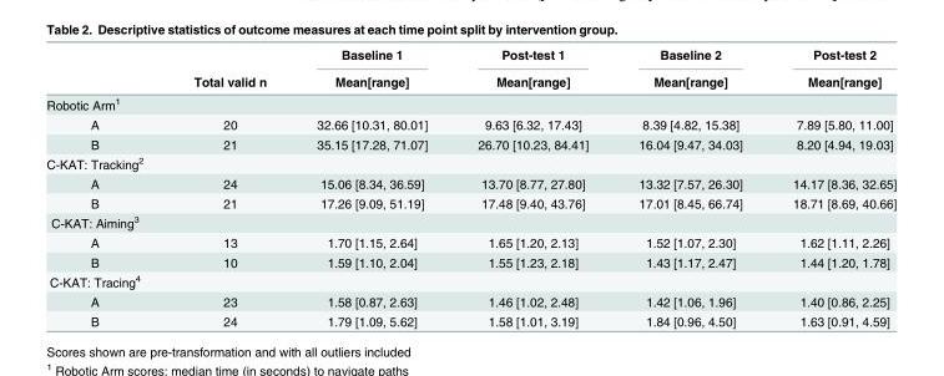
<table><thead><tr><td rowspan="2"></td><td rowspan="2">Total valid n</td><td rowspan="2">Baseline 1 Mean[range]</td><td rowspan="2">Post-test 1 Mean[range]</td><td rowspan="2">Baseline 2 Mean[range]</td><td rowspan="2">Post-test 2 Mean[range]</td></tr><tr></tr></thead><tbody><tr><td colspan="6">Robotic Arm<sup>1</sup></td></tr><tr><td>A</td><td>20</td><td>32.66 [10.31, 80.01]</td><td>9.63 [6.32, 17.43]</td><td>8.39 [4.82, 15.38]</td><td>7.89 [5.80, 11.00]</td></tr><tr><td>B</td><td>21</td><td>35.15 [17.28, 71.07]</td><td>26.70 [10.23, 84.41]</td><td>16.04 [9.47, 34.03]</td><td>8.20 [4.94, 19.03]</td></tr><tr><td colspan="6">C-KAT: Tracking<sup>2</sup></td></tr><tr><td>A</td><td>24</td><td>15.06 [8.34, 36.59]</td><td>13.70 [8.77, 27.80]</td><td>13.32 [7.57, 26.30]</td><td>14.17 [8.36, 32.65]</td></tr><tr><td>B</td><td>21</td><td>17.26 [9.09, 51.19]</td><td>17.48 [9.40, 43.76]</td><td>17.01 [8.45, 66.74]</td><td>18.71 [8.69, 40.66]</td></tr><tr><td colspan="6">C-KAT: Aiming<sup>3</sup></td></tr><tr><td>A</td><td>13</td><td>1.70 [1.15, 2.64]</td><td>1.65 [1.20, 2.13]</td><td>1.52 [1.07, 2.30]</td><td>1.62 [1.11, 2.26]</td></tr><tr><td>B</td><td>10</td><td>1.59 [1.10, 2.04]</td><td>1.55 [1.23, 2.18]</td><td>1.43 [1.17, 2.47]</td><td>1.44 [1.20, 1.78]</td></tr><tr><td colspan="6">C-KAT: Tracing<sup>4</sup></td></tr><tr><td>A</td><td>23</td><td>1.58 [0.87, 2.63]</td><td>1.46 [1.02, 2.48]</td><td>1.42 [1.06, 1.96]</td><td>1.40 [0.86, 2.25]</td></tr><tr><td>B</td><td>24</td><td>1.79 [1.09, 5.62]</td><td>1.58 [1.01, 3.19]</td><td>1.84 [0.96, 4.50]</td><td>1.63 [0.91, 4.59]</td></tr></tbody></table>